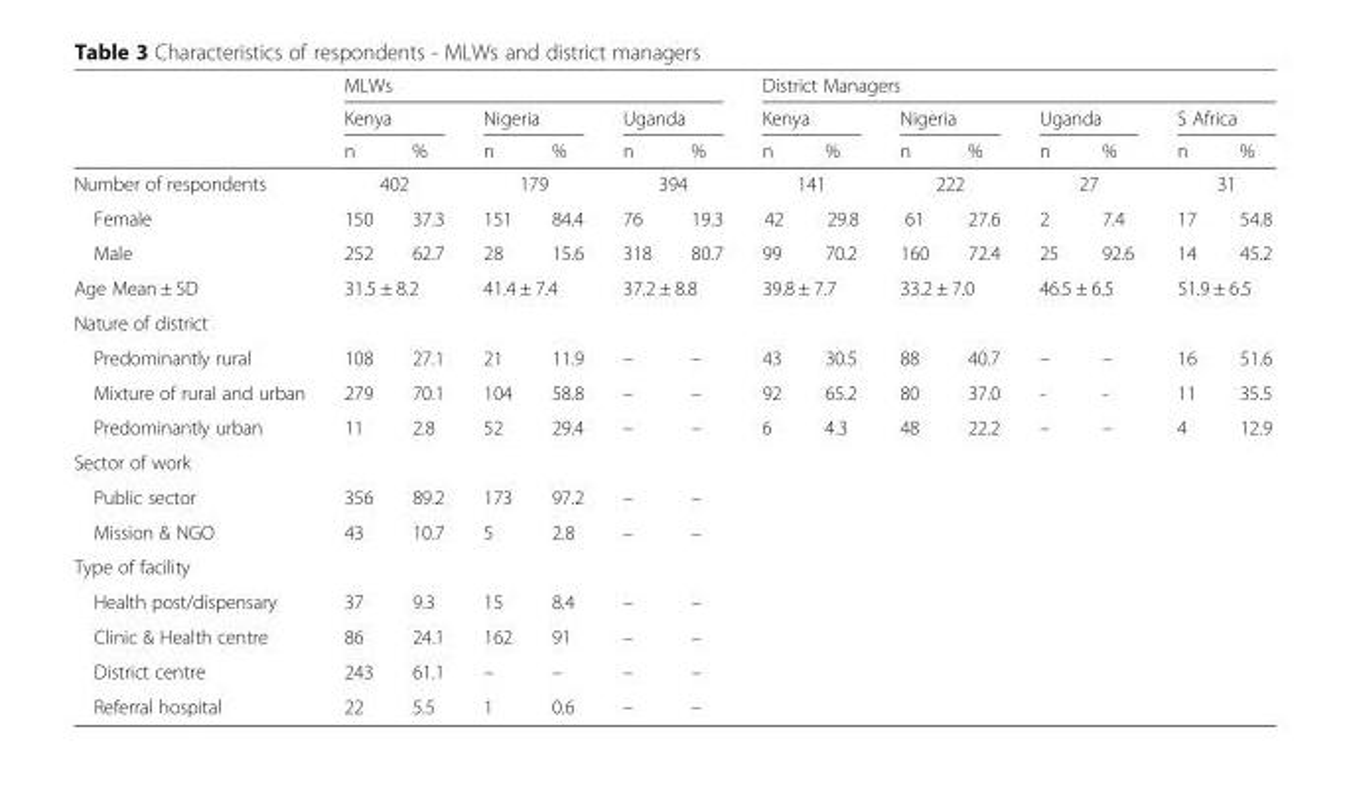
<table><thead><tr><td rowspan="3"></td><td colspan="6">MLWs</td><td colspan="8">District Managers</td></tr><tr><td colspan="2">Kenya</td><td colspan="2">Nigeria</td><td colspan="2">Uganda</td><td colspan="2">Kenya</td><td colspan="2">Nigeria</td><td colspan="2">Uganda</td><td colspan="2">S Africa</td></tr><tr><td>n</td><td>%</td><td>n</td><td>%</td><td>n</td><td>%</td><td>n</td><td>%</td><td>n</td><td>%</td><td>n</td><td>%</td><td>n</td><td>%</td></tr></thead><tbody><tr><td>Number of respondents</td><td colspan="2">402</td><td colspan="2">179</td><td colspan="2">394</td><td colspan="2">141</td><td colspan="2">222</td><td colspan="2">27</td><td colspan="2">31</td></tr><tr><td>Female</td><td>150</td><td>37.3</td><td>151</td><td>84.4</td><td>76</td><td>19.3</td><td>42</td><td>29.8</td><td>61</td><td>27.6</td><td>2</td><td>7.4</td><td>17</td><td>54.8</td></tr><tr><td>Male</td><td>252</td><td>62.7</td><td>28</td><td>15.6</td><td>318</td><td>80.7</td><td>99</td><td>70.2</td><td>160</td><td>72.4</td><td>25</td><td>92.6</td><td>14</td><td>45.2</td></tr><tr><td>Age Mean ± SD</td><td colspan="2">31.5 ± 8.2</td><td colspan="2">41.4 ± 7.4</td><td colspan="2">37.2 ± 8.8</td><td colspan="2">39.8 ± 7.7</td><td colspan="2">33.2 ± 7.0</td><td colspan="2">46.5 ± 6.5</td><td colspan="2">51.9 ± 6.5</td></tr><tr><td colspan="15">Nature of district</td></tr><tr><td>Predominantly rural</td><td>108</td><td>27.1</td><td>21</td><td>11.9</td><td>–</td><td>–</td><td>43</td><td>30.5</td><td>88</td><td>40.7</td><td>–</td><td>–</td><td>16</td><td>51.6</td></tr><tr><td>Mixture of rural and urban</td><td>279</td><td>70.1</td><td>104</td><td>58.8</td><td>–</td><td>–</td><td>92</td><td>65.2</td><td>80</td><td>37.0</td><td>-</td><td>-</td><td>11</td><td>35.5</td></tr><tr><td>Predominantly urban</td><td>11</td><td>2.8</td><td>52</td><td>29.4</td><td>–</td><td>–</td><td>6</td><td>4.3</td><td>48</td><td>22.2</td><td>–</td><td>–</td><td>4</td><td>12.9</td></tr><tr><td colspan="15">Sector of work</td></tr><tr><td>Public sector</td><td>356</td><td>89.2</td><td>173</td><td>97.2</td><td>–</td><td>–</td><td></td><td></td><td></td><td></td><td></td><td></td><td></td><td></td></tr><tr><td>Mission &amp; NGO</td><td>43</td><td>10.7</td><td>5</td><td>2.8</td><td>–</td><td>–</td><td></td><td></td><td></td><td></td><td></td><td></td><td></td><td></td></tr><tr><td colspan="15">Type of facility</td></tr><tr><td>Health post/dispensary</td><td>37</td><td>9.3</td><td>15</td><td>8.4</td><td>–</td><td>–</td><td></td><td></td><td></td><td></td><td></td><td></td><td></td><td></td></tr><tr><td>Clinic &amp; Health centre</td><td>86</td><td>24.1</td><td>162</td><td>91</td><td>–</td><td>–</td><td></td><td></td><td></td><td></td><td></td><td></td><td></td><td></td></tr><tr><td>District centre</td><td>243</td><td>61.1</td><td>–</td><td>–</td><td>–</td><td>–</td><td></td><td></td><td></td><td></td><td></td><td></td><td></td><td></td></tr><tr><td>Referral hospital</td><td>22</td><td>5.5</td><td>1</td><td>0.6</td><td>–</td><td>–</td><td></td><td></td><td></td><td></td><td></td><td></td><td></td><td></td></tr></tbody></table>